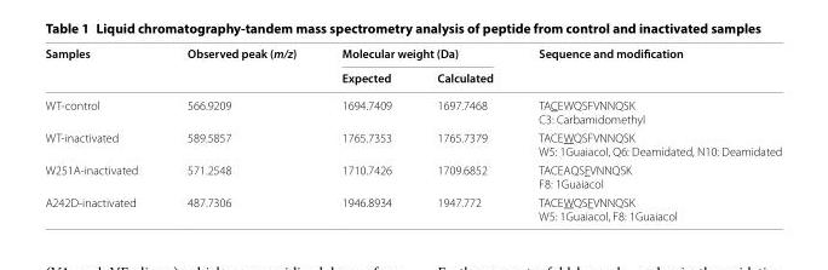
<table><thead><tr><td rowspan="2">Samples</td><td rowspan="2">Observed peak (m/z)</td><td colspan="2">Molecular weight (Da)</td><td rowspan="2">Sequence and modification</td></tr><tr><td>Expected</td><td>Calculated</td></tr></thead><tbody><tr><td>WT-control</td><td>566.9209</td><td>1694.7409</td><td>1697.7468</td><td>TACEWQSFVNNQSK C3: Carbamidomethyl</td></tr><tr><td>WT-inactivated</td><td>589.5857</td><td>1765.7353</td><td>1765.7379</td><td>TACEWQSFVNNQSK W5: 1Guaiacol, Q6: Deamidated, N10: Deamidated</td></tr><tr><td>W251A-inactivated</td><td>571.2548</td><td>1710.7426</td><td>1709.6852</td><td>TACEAQSFVNNQSK F8: 1Guaiacol</td></tr><tr><td>A242D-inactivated</td><td>487.7306</td><td>1946.8934</td><td>1947.772</td><td>TACEWQSFVNNQSK W5: 1Guaiacol, F8: 1Guaiacol</td></tr></tbody></table>